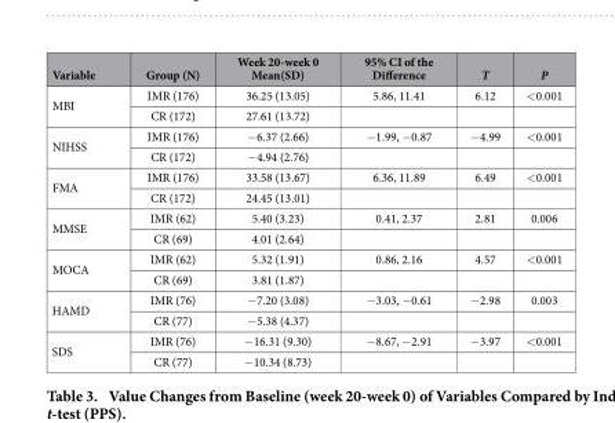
<table><thead><tr><td>Variable</td><td>Group (N)</td><td>Week 20-week 0 Mean(SD)</td><td>95% CI of the Difference</td><td>T</td><td>P</td></tr></thead><tbody><tr><td rowspan="2">MBI</td><td>IMR (176)</td><td>36.25 (13.05)</td><td>5.86, 11.41</td><td>6.12</td><td>&lt; 0.001</td></tr><tr><td>CR (172)</td><td>27.61 (13.72)</td><td></td><td></td><td></td></tr><tr><td rowspan="2">NIHSS</td><td>IMR (176)</td><td>− 6.37 (2.66)</td><td>− 1.99, − 0.87</td><td>− 4.99</td><td>&lt; 0.001</td></tr><tr><td>CR (172)</td><td>− 4.94 (2.76)</td><td></td><td></td><td></td></tr><tr><td rowspan="2">FMA</td><td>IMR (176)</td><td>33.58 (13.67)</td><td>6.36, 11.89</td><td>6.49</td><td>&lt; 0.001</td></tr><tr><td>CR (172)</td><td>24.45 (13.01)</td><td></td><td></td><td></td></tr><tr><td rowspan="2">MMSE</td><td>IMR (62)</td><td>5.40 (3.23)</td><td>0.41, 2.37</td><td>2.81</td><td>0.006</td></tr><tr><td>CR (69)</td><td>4.01 (2.64)</td><td></td><td></td><td></td></tr><tr><td rowspan="2">MOCA</td><td>IMR (62)</td><td>5.32 (1.91)</td><td>0.86, 2.16</td><td>4.57</td><td>&lt; 0.001</td></tr><tr><td>CR (69)</td><td>3.81 (1.87)</td><td></td><td></td><td></td></tr><tr><td rowspan="2">HAMD</td><td>IMR (76)</td><td>− 7.20 (3.08)</td><td>− 3.03, − 0.61</td><td>− 2.98</td><td>0.003</td></tr><tr><td>CR (77)</td><td>− 5.38 (4.37)</td><td></td><td></td><td></td></tr><tr><td rowspan="2">SDS</td><td>IMR (76)</td><td>− 16.31 (9.30)</td><td>− 8.67, − 2.91</td><td>− 3.97</td><td>&lt; 0.001</td></tr><tr><td>CR (77)</td><td>− 10.34 (8.73)</td><td></td><td></td><td></td></tr></tbody></table>